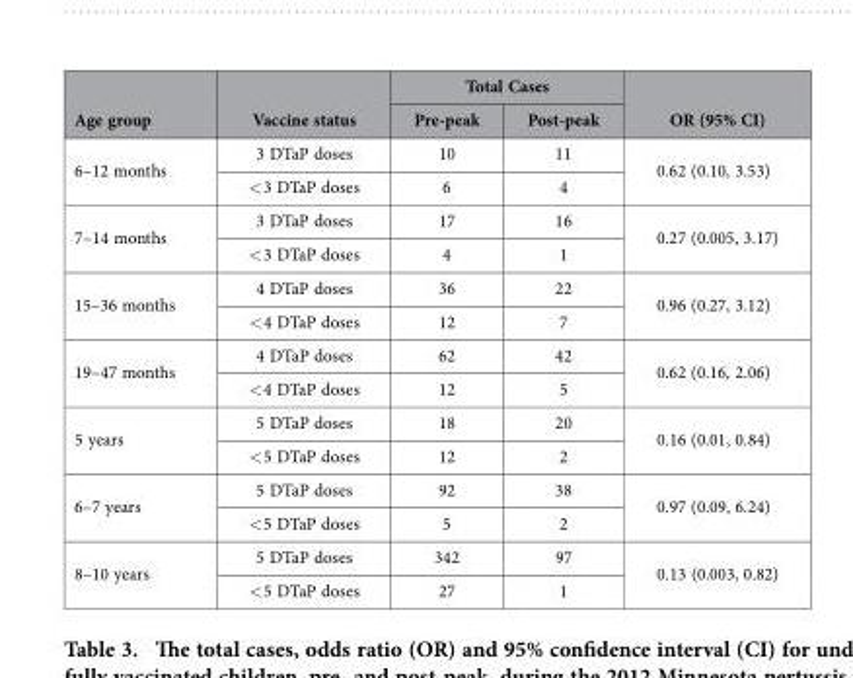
<table><thead><tr><td rowspan="2">Age group</td><td rowspan="2">Vaccine status</td><td colspan="2">Total Cases</td><td rowspan="2">OR (95% CI)</td></tr><tr><td>Pre-peak</td><td>Post-peak</td></tr></thead><tbody><tr><td rowspan="2">6–12 months</td><td>3 DTaP doses</td><td>10</td><td>11</td><td rowspan="2">0.62 (0.10, 3.53)</td></tr><tr><td>&lt; 3 DTaP doses</td><td>6</td><td>4</td></tr><tr><td rowspan="2">7–14 months</td><td>3 DTaP doses</td><td>17</td><td>16</td><td rowspan="2">0.27 (0.005, 3.17)</td></tr><tr><td>&lt; 3 DTaP doses</td><td>4</td><td>1</td></tr><tr><td rowspan="2">15–36 months</td><td>4 DTaP doses</td><td>36</td><td>22</td><td rowspan="2">0.96 (0.27, 3.12)</td></tr><tr><td>&lt; 4 DTaP doses</td><td>12</td><td>7</td></tr><tr><td rowspan="2">19–47 months</td><td>4 DTaP doses</td><td>62</td><td>42</td><td rowspan="2">0.62 (0.16, 2.06)</td></tr><tr><td>&lt; 4 DTaP doses</td><td>12</td><td>5</td></tr><tr><td rowspan="2">5 years</td><td>5 DTaP doses</td><td>18</td><td>20</td><td rowspan="2">0.16 (0.01, 0.84)</td></tr><tr><td>&lt; 5 DTaP doses</td><td>12</td><td>2</td></tr><tr><td rowspan="2">6–7 years</td><td>5 DTaP doses</td><td>92</td><td>38</td><td rowspan="2">0.97 (0.09, 6.24)</td></tr><tr><td>&lt; 5 DTaP doses</td><td>5</td><td>2</td></tr><tr><td rowspan="2">8–10 years</td><td>5 DTaP doses</td><td>342</td><td>97</td><td rowspan="2">0.13 (0.003, 0.82)</td></tr><tr><td>&lt; 5 DTaP doses</td><td>27</td><td>1</td></tr></tbody></table>